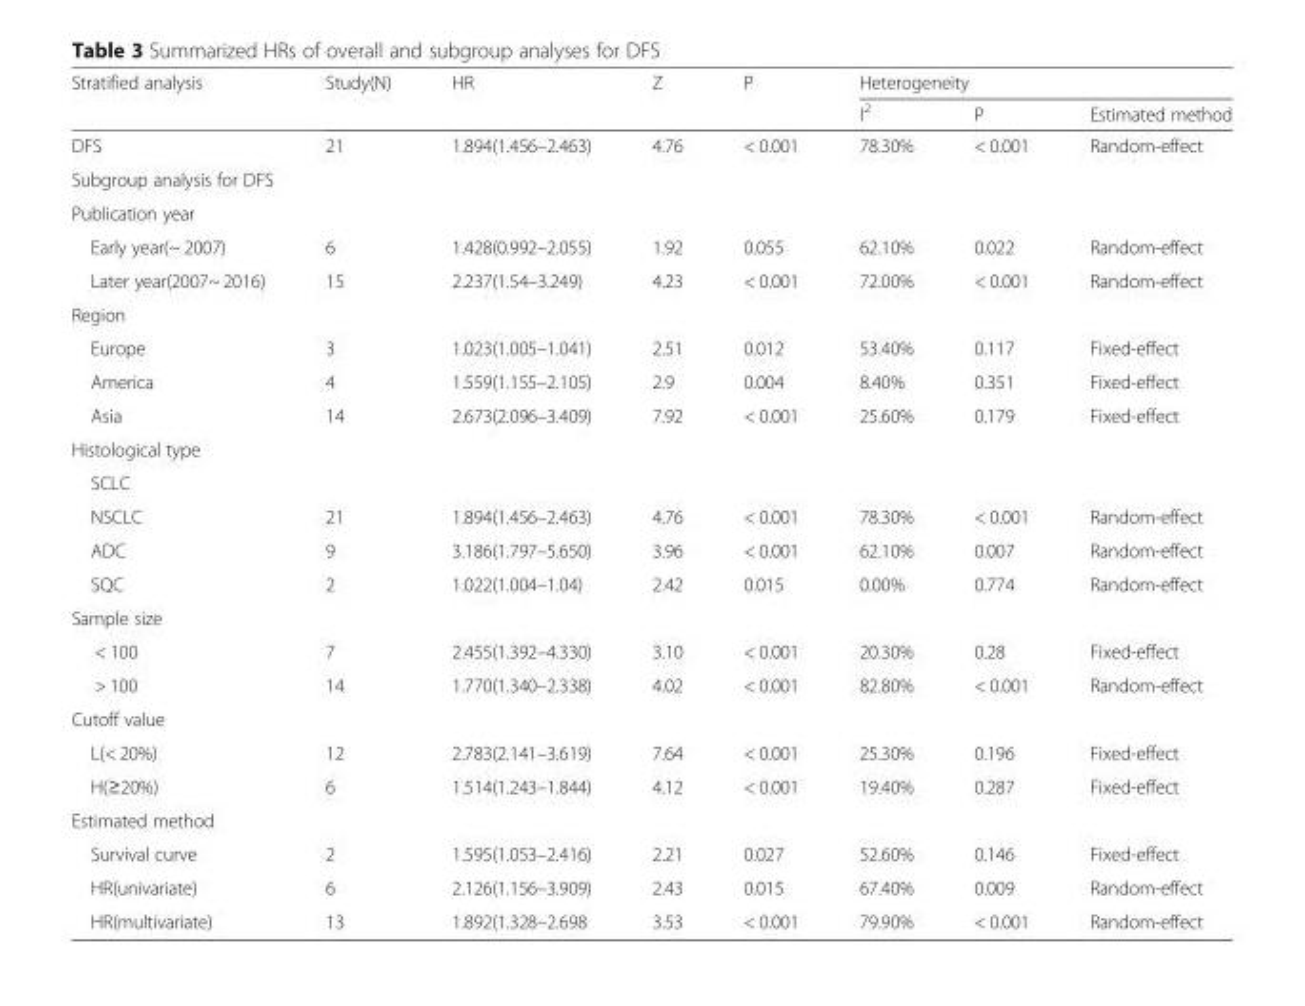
<table><thead><tr><td rowspan="2">Stratified analysis</td><td rowspan="2">Study(N)</td><td rowspan="2">HR</td><td rowspan="2">Z</td><td rowspan="2">P</td><td colspan="3">Heterogeneity</td></tr><tr><td>I<sup>2</sup></td><td>P</td><td>Estimated method</td></tr></thead><tbody><tr><td>DFS</td><td>21</td><td>1.894(1.456–2.463)</td><td>4.76</td><td>&lt; 0.001</td><td>78.30%</td><td>&lt; 0.001</td><td>Random-effect</td></tr><tr><td colspan="8">Subgroup analysis for DFS</td></tr><tr><td colspan="8">Publication year</td></tr><tr><td>Early year(~ 2007)</td><td>6</td><td>1.428(0.992–2.055)</td><td>1.92</td><td>0.055</td><td>62.10%</td><td>0.022</td><td>Random-effect</td></tr><tr><td>Later year(2007~ 2016)</td><td>15</td><td>2.237(1.54–3.249)</td><td>4.23</td><td>&lt; 0.001</td><td>72.00%</td><td>&lt; 0.001</td><td>Random-effect</td></tr><tr><td colspan="8">Region</td></tr><tr><td>Europe</td><td>3</td><td>1.023(1.005–1.041)</td><td>2.51</td><td>0.012</td><td>53.40%</td><td>0.117</td><td>Fixed-effect</td></tr><tr><td>America</td><td>4</td><td>1.559(1.155–2.105)</td><td>2.9</td><td>0.004</td><td>8.40%</td><td>0.351</td><td>Fixed-effect</td></tr><tr><td>Asia</td><td>14</td><td>2.673(2.096–3.409)</td><td>7.92</td><td>&lt; 0.001</td><td>25.60%</td><td>0.179</td><td>Fixed-effect</td></tr><tr><td colspan="8">Histological type</td></tr><tr><td colspan="8">SCLC</td></tr><tr><td>NSCLC</td><td>21</td><td>1.894(1.456–2.463)</td><td>4.76</td><td>&lt; 0.001</td><td>78.30%</td><td>&lt; 0.001</td><td>Random-effect</td></tr><tr><td>ADC</td><td>9</td><td>3.186(1.797–5.650)</td><td>3.96</td><td>&lt; 0.001</td><td>62.10%</td><td>0.007</td><td>Random-effect</td></tr><tr><td>SQC</td><td>2</td><td>1.022(1.004–1.04)</td><td>2.42</td><td>0.015</td><td>0.00%</td><td>0.774</td><td>Random-effect</td></tr><tr><td colspan="8">Sample size</td></tr><tr><td>&lt; 100</td><td>7</td><td>2.455(1.392–4.330)</td><td>3.10</td><td>&lt; 0.001</td><td>20.30%</td><td>0.28</td><td>Fixed-effect</td></tr><tr><td>&gt; 100</td><td>14</td><td>1.770(1.340–2.338)</td><td>4.02</td><td>&lt; 0.001</td><td>82.80%</td><td>&lt; 0.001</td><td>Random-effect</td></tr><tr><td colspan="8">Cutoff value</td></tr><tr><td>L(&lt; 20%)</td><td>12</td><td>2.783(2.141–3.619)</td><td>7.64</td><td>&lt; 0.001</td><td>25.30%</td><td>0.196</td><td>Fixed-effect</td></tr><tr><td>H(≥20%)</td><td>6</td><td>1.514(1.243–1.844)</td><td>4.12</td><td>&lt; 0.001</td><td>19.40%</td><td>0.287</td><td>Fixed-effect</td></tr><tr><td colspan="8">Estimated method</td></tr><tr><td>Survival curve</td><td>2</td><td>1.595(1.053–2.416)</td><td>2.21</td><td>0.027</td><td>52.60%</td><td>0.146</td><td>Fixed-effect</td></tr><tr><td>HR(univariate)</td><td>6</td><td>2.126(1.156–3.909)</td><td>2.43</td><td>0.015</td><td>67.40%</td><td>0.009</td><td>Random-effect</td></tr><tr><td>HR(multivariate)</td><td>13</td><td>1.892(1.328–2.698</td><td>3.53</td><td>&lt; 0.001</td><td>79.90%</td><td>&lt; 0.001</td><td>Random-effect</td></tr></tbody></table>